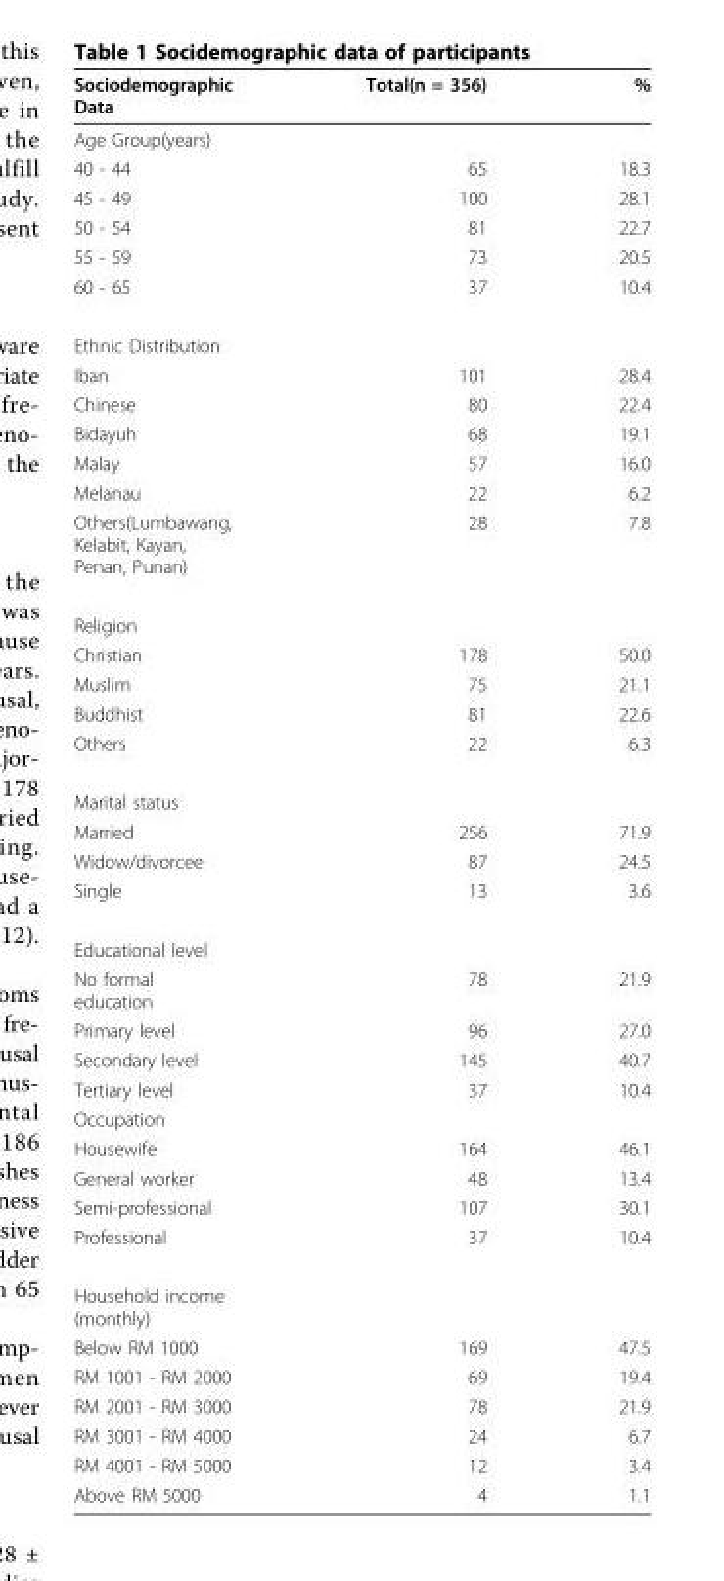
<table><thead><tr><td>Sociodemographic Data</td><td>Total(n = 356)</td><td>%</td></tr></thead><tbody><tr><td colspan="3">Age Group(years)</td></tr><tr><td>40 - 44</td><td>65</td><td>18.3</td></tr><tr><td>45 - 49</td><td>100</td><td>28.1</td></tr><tr><td>50 - 54</td><td>81</td><td>22.7</td></tr><tr><td>55 - 59</td><td>73</td><td>20.5</td></tr><tr><td>60 - 65</td><td>37</td><td>10.4</td></tr><tr><td colspan="3">Ethnic Distribution</td></tr><tr><td>Iban</td><td>101</td><td>28.4</td></tr><tr><td>Chinese</td><td>80</td><td>22.4</td></tr><tr><td>Bidayuh</td><td>68</td><td>19.1</td></tr><tr><td>Malay</td><td>57</td><td>16.0</td></tr><tr><td>Melanau</td><td>22</td><td>6.2</td></tr><tr><td>Others(Lumbawang, Kelabit, Kayan, Penan, Punan)</td><td>28</td><td>7.8</td></tr><tr><td colspan="3">Religion</td></tr><tr><td>Christian</td><td>178</td><td>50.0</td></tr><tr><td>Muslim</td><td>75</td><td>21.1</td></tr><tr><td>Buddhist</td><td>81</td><td>22.6</td></tr><tr><td>Others</td><td>22</td><td>6.3</td></tr><tr><td colspan="3">Marital status</td></tr><tr><td>Married</td><td>256</td><td>71.9</td></tr><tr><td>Widow/divorcee</td><td>87</td><td>24.5</td></tr><tr><td>Single</td><td>13</td><td>3.6</td></tr><tr><td colspan="3">Educational level</td></tr><tr><td>No formal education</td><td>78</td><td>21.9</td></tr><tr><td>Primary level</td><td>96</td><td>27.0</td></tr><tr><td>Secondary level</td><td>145</td><td>40.7</td></tr><tr><td>Tertiary level</td><td>37</td><td>10.4</td></tr><tr><td colspan="3">Occupation</td></tr><tr><td>Housewife</td><td>164</td><td>46.1</td></tr><tr><td>General worker</td><td>48</td><td>13.4</td></tr><tr><td>Semi-professional</td><td>107</td><td>30.1</td></tr><tr><td>Professional</td><td>37</td><td>10.4</td></tr><tr><td colspan="3">Household income (monthly)</td></tr><tr><td>Below RM 1000</td><td>169</td><td>47.5</td></tr><tr><td>RM 1001 - RM 2000</td><td>69</td><td>19.4</td></tr><tr><td>RM 2001 - RM 3000</td><td>78</td><td>21.9</td></tr><tr><td>RM 3001 - RM 4000</td><td>24</td><td>6.7</td></tr><tr><td>RM 4001 - RM 5000</td><td>12</td><td>3.4</td></tr><tr><td>Above RM 5000</td><td>4</td><td>1.1</td></tr></tbody></table>